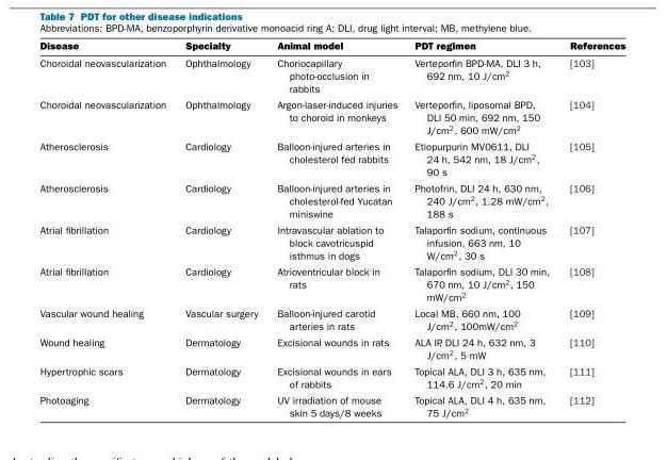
<table><thead><tr><td>Disease</td><td>Specialty</td><td>Animal model</td><td>PDT regimen</td><td>References</td></tr></thead><tbody><tr><td>Choroidal neovascularization</td><td>Ophthalmology</td><td>Choriocapillary photo-occlusion in rabbits</td><td>Verteporfin BPD-MA, DLI 3 h, 692 nm, 10 J/cm2</td><td>[103]</td></tr><tr><td>Choroidal neovascularization</td><td>Ophthalmology</td><td>Argon-laser-induced injuries to choroid in monkeys</td><td>Verteporfin, liposomal BPD, DLI 50 min, 692 nm, 150 J/cm2, 600 mW/cm2</td><td>[104]</td></tr><tr><td>Atherosclerosis</td><td>Cardiology</td><td>Balloon-injured arteries in cholesterol fed rabbits</td><td>Etiopurpurin MV0611, DLI 24 h, 542 nm, 18 J/cm2, 90 s</td><td>[105]</td></tr><tr><td>Atherosclerosis</td><td>Cardiology</td><td>Balloon-injured arteries in cholesterol-fed Yucatan miniswine</td><td>Photofrin, DLI 24 h, 630 nm, 240 J/cm2, 1.28 mW/cm2, 188 s</td><td>[106]</td></tr><tr><td>Atrial fibrillation</td><td>Cardiology</td><td>Intravascular ablation to block cavotricuspid isthmus in dogs</td><td>Talaporfin sodium, continuous infusion, 663 nm, 10 W/cm2, 30 s</td><td>[107]</td></tr><tr><td>Atrial fibrillation</td><td>Cardiology</td><td>Atrioventricular block in rats</td><td>Talaporfin sodium, DLI 30 min, 670 nm, 10 J/cm2, 150 mW/cm2</td><td>[108]</td></tr><tr><td>Vascular wound healing</td><td>Vascular surgery</td><td>Balloon-injured carotid arteries in rats</td><td>Local MB, 660 nm, 100 J/cm2, 100mW/cm2</td><td>[109]</td></tr><tr><td>Wound healing</td><td>Dermatology</td><td>Excisional wounds in rats</td><td>ALA IP, DLI 24 h, 632 nm, 3 J/cm2, 5 mW</td><td>[110]</td></tr><tr><td>Hypertrophic scars</td><td>Dermatology</td><td>Excisional wounds in ears of rabbits</td><td>Topical ALA, DLI 3 h, 635 nm, 114.6 J/cm2, 20 min</td><td>[111]</td></tr><tr><td>Photoaging</td><td>Dermatology</td><td>UV irradiation of mouse skin 5 days/8 weeks</td><td>Topical ALA, DLI 4 h, 635 nm, 75 J/cm2</td><td>[112]</td></tr></tbody></table>